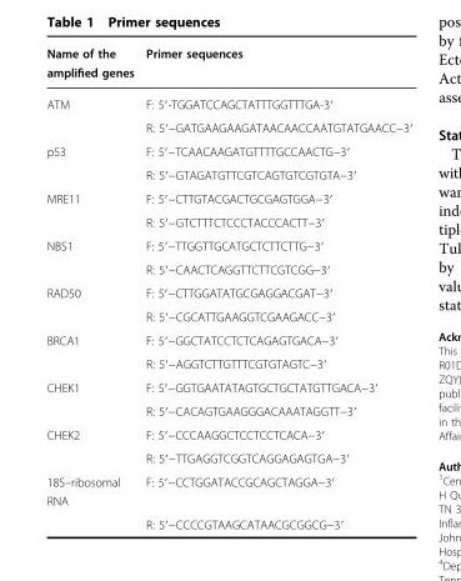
<table><thead><tr><td>Name of the amplified genes</td><td>Primer sequences</td></tr></thead><tbody><tr><td rowspan="2">ATM</td><td>F: 5′-TGGATCCAGCTATTTGGTTTGA-3′</td></tr><tr><td>R: 5′−GATGAAGAAGATAACAACCAATGTATGAACC−3′</td></tr><tr><td rowspan="2">p53</td><td>F: 5′−TCAACAAGATGTTTTGCCAACTG−3′</td></tr><tr><td>R: 5′−GTAGATGTTCGTCAGTGTCGTGTA−3′</td></tr><tr><td rowspan="2">MRE11</td><td>F: 5′−CTTGTACGACTGCGAGTGGA−3′</td></tr><tr><td>R: 5′−GTCTTTCTCCCTACCCACTT−3′</td></tr><tr><td rowspan="2">NBS1</td><td>F: 5′−TTGGTTGCATGCTCTTCTTG−3′</td></tr><tr><td>R: 5′−CAACTCAGGTTCTTCGTCGG−3′</td></tr><tr><td rowspan="2">RAD50</td><td>F: 5′−CTTGGATATGCGAGGACGAT−3′</td></tr><tr><td>R: 5′−CGCATTGAAGGTCGAAGACC−3′</td></tr><tr><td rowspan="2">BRCA1</td><td>F: 5′−GGCTATCCTCTCAGAGTGACA−3′</td></tr><tr><td>R: 5′−AGGTCTTGTTTCGTGTAGTC−3′</td></tr><tr><td rowspan="2">CHEK1</td><td>F: 5′−GGTGAATATAGTGCTGCTATGTTGACA−3′</td></tr><tr><td>R: 5′−CACAGTGAAGGGACAAATAGGTT−3′</td></tr><tr><td rowspan="2">CHEK2</td><td>F: 5′−CCCAAGGCTCCTCCTCACA−3′</td></tr><tr><td>R: 5′−TTGAGGTCGGTCAGGAGAGTGA−3′</td></tr><tr><td rowspan="2">18S–ribosomal RNA</td><td>F: 5′−CCTGGATACCGCAGCTAGGA−3′</td></tr><tr><td>R: 5′−CCCCGTAAGCATAACGCGGCG−3′</td></tr></tbody></table>